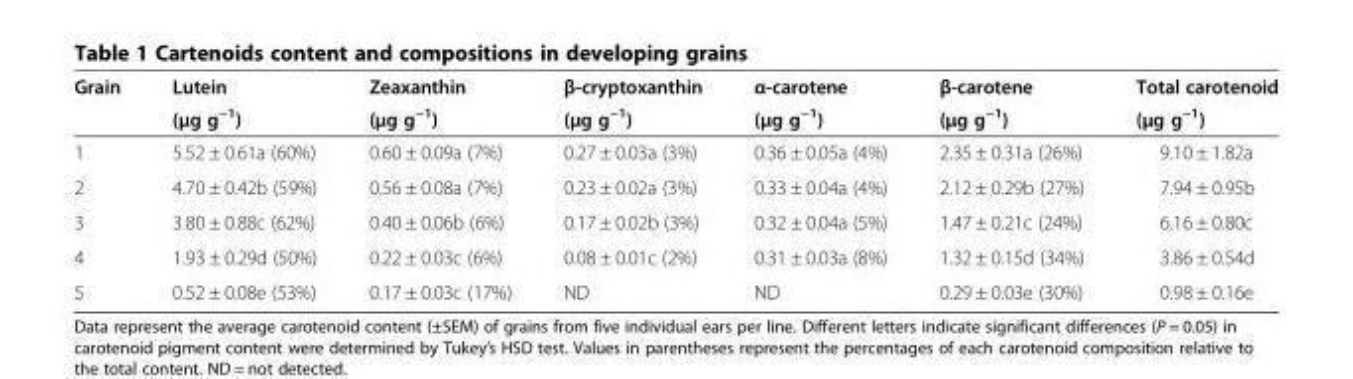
<table><thead><tr><td rowspan="2">Grain</td><td rowspan="2">Lutein (μg g−1)</td><td rowspan="2">Zeaxanthin (μg g−1)</td><td rowspan="2">β-cryptoxanthin (μg g−1)</td><td rowspan="2">α-carotene (μg g−1)</td><td rowspan="2">β-carotene (μg g−1)</td><td rowspan="2">Total carotenoid (μg g−1)</td></tr><tr></tr></thead><tbody><tr><td>1</td><td>5.52 ± 0.61a (60%)</td><td>0.60 ± 0.09a (7%)</td><td>0.27 ± 0.03a (3%)</td><td>0.36 ± 0.05a (4%)</td><td>2.35 ± 0.31a (26%)</td><td>9.10 ± 1.82a</td></tr><tr><td>2</td><td>4.70 ± 0.42b (59%)</td><td>0.56 ± 0.08a (7%)</td><td>0.23 ± 0.02a (3%)</td><td>0.33 ± 0.04a (4%)</td><td>2.12 ± 0.29b (27%)</td><td>7.94 ± 0.95b</td></tr><tr><td>3</td><td>3.80 ± 0.88c (62%)</td><td>0.40 ± 0.06b (6%)</td><td>0.17 ± 0.02b (3%)</td><td>0.32 ± 0.04a (5%)</td><td>1.47 ± 0.21c (24%)</td><td>6.16 ± 0.80c</td></tr><tr><td>4</td><td>1.93 ± 0.29d (50%)</td><td>0.22 ± 0.03c (6%)</td><td>0.08 ± 0.01c (2%)</td><td>0.31 ± 0.03a (8%)</td><td>1.32 ± 0.15d (34%)</td><td>3.86 ± 0.54d</td></tr><tr><td>5</td><td>0.52 ± 0.08e (53%)</td><td>0.17 ± 0.03c (17%)</td><td>ND</td><td>ND</td><td>0.29 ± 0.03e (30%)</td><td>0.98 ± 0.16e</td></tr></tbody></table>